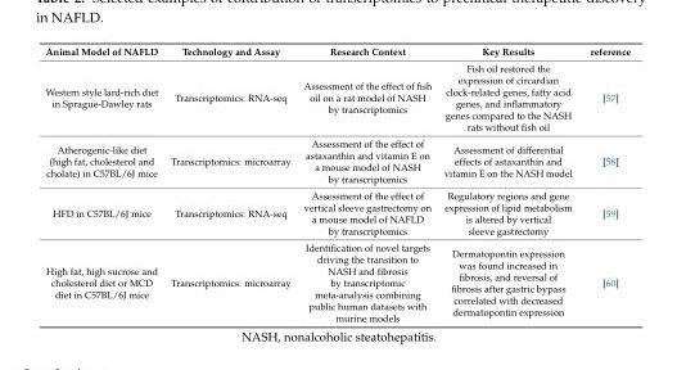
<table><thead><tr><td>Animal Model of NAFLD</td><td>Technology and Assay</td><td>Research Context</td><td>Key Results</td><td>reference</td></tr></thead><tbody><tr><td>Western style lard-rich diet in Sprague-Dawley rats</td><td>Transcriptomics: RNA-seq</td><td>Assessment of the effect of fish oil on a rat model of NASH by transcriptomics</td><td>Fish oil restored the expression of circardian clock-related genes, fatty acid genes, and inflammatory genes compared to the NASH rats without fish oil</td><td>[57]</td></tr><tr><td>Atherogenic-like diet (high fat, cholesterol and cholate) in C57BL/6J mice</td><td>Transcriptomics: microarray</td><td>Assessment of the effect of astaxanthin and vitamin E on a mouse model of NASH by transcriptomics</td><td>Assessment of differential effects of astaxanthin and vitamin E on the NASH model</td><td>[58]</td></tr><tr><td>HFD in C57BL/6J mice</td><td>Transcriptomics: RNA-seq</td><td>Assessment of the effect of vertical sleeve gastrectomy on a mouse model of NAFLD by transcriptomics</td><td>Regulatory regions and gene expression of lipid metabolism is altered by vertical sleeve gastrectomy</td><td>[59]</td></tr><tr><td>High fat, high sucrose and cholesterol diet or MCD diet in C57BL/6J mice</td><td>Transcriptomics: microarray</td><td>Identification of novel targets driving the transition to NASH and fibrosis by transcriptomic meta-analysis combining public human datasets with murine models</td><td>Dermatopontin expression was found increased in fibrosis, and reversal of fibrosis after gastric bypass correlated with decreased dermatopontin expression</td><td>[60]</td></tr></tbody></table>